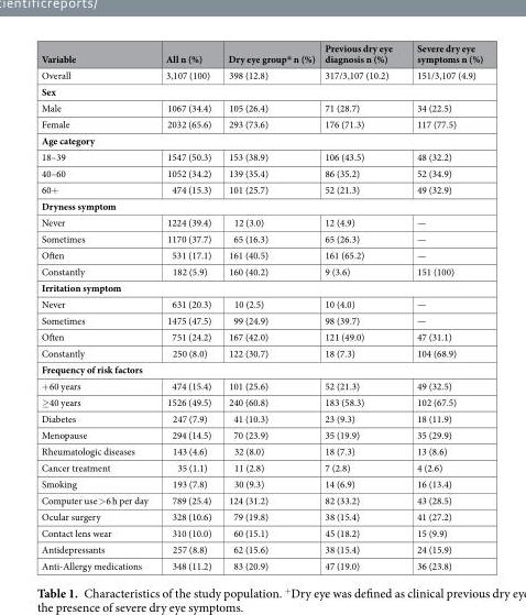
<table><thead><tr><td>Variable</td><td>All n (%)</td><td>Dry eye group* n (%)</td><td>Previous dry eye diagnosis n (%)</td><td>Severe dry eye symptoms n (%)</td></tr></thead><tbody><tr><td>Overall</td><td>3,107 (100)</td><td>398 (12.8)</td><td>317/3,107 (10.2)</td><td>151/3,107 (4.9)</td></tr><tr><td colspan="5">Sex</td></tr><tr><td>Male</td><td>1067 (34.4)</td><td>105 (26.4)</td><td>71 (28.7)</td><td>34 (22.5)</td></tr><tr><td>Female</td><td>2032 (65.6)</td><td>293 (73.6)</td><td>176 (71.3)</td><td>117 (77.5)</td></tr><tr><td colspan="5">Age category</td></tr><tr><td>18–39</td><td>1547 (50.3)</td><td>153 (38.9)</td><td>106 (43.5)</td><td>48 (32.2)</td></tr><tr><td>40–60</td><td>1052 (34.2)</td><td>139 (35.4)</td><td>86 (35.2)</td><td>52 (34.9)</td></tr><tr><td>60+</td><td>474 (15.3)</td><td>101 (25.7)</td><td>52 (21.3)</td><td>49 (32.9)</td></tr><tr><td colspan="5">Dryness symptom</td></tr><tr><td>Never</td><td>1224 (39.4)</td><td>12 (3.0)</td><td>12 (4.9)</td><td>—</td></tr><tr><td>Sometimes</td><td>1170 (37.7)</td><td>65 (16.3)</td><td>65 (26.3)</td><td>—</td></tr><tr><td>Often</td><td>531 (17.1)</td><td>161 (40.5)</td><td>161 (65.2)</td><td>—</td></tr><tr><td>Constantly</td><td>182 (5.9)</td><td>160 (40.2)</td><td>9 (3.6)</td><td>151 (100)</td></tr><tr><td colspan="5">Irritation symptom</td></tr><tr><td>Never</td><td>631 (20.3)</td><td>10 (2.5)</td><td>10 (4.0)</td><td>—</td></tr><tr><td>Sometimes</td><td>1475 (47.5)</td><td>99 (24.9)</td><td>98 (39.7)</td><td>—</td></tr><tr><td>Often</td><td>751 (24.2)</td><td>167 (42.0)</td><td>121 (49.0)</td><td>47 (31.1)</td></tr><tr><td>Constantly</td><td>250 (8.0)</td><td>122 (30.7)</td><td>18 (7.3)</td><td>104 (68.9)</td></tr><tr><td colspan="5">Frequency of risk factors</td></tr><tr><td>+60 years</td><td>474 (15.4)</td><td>101 (25.6)</td><td>52 (21.3)</td><td>49 (32.5)</td></tr><tr><td>≥40 years</td><td>1526 (49.5)</td><td>240 (60.8)</td><td>183 (58.3)</td><td>102 (67.5)</td></tr><tr><td>Diabetes</td><td>247 (7.9)</td><td>41 (10.3)</td><td>23 (9.3)</td><td>18 (11.9)</td></tr><tr><td>Menopause</td><td>294 (14.5)</td><td>70 (23.9)</td><td>35 (19.9)</td><td>35 (29.9)</td></tr><tr><td>Rheumatologic diseases</td><td>143 (4.6)</td><td>32 (8.0)</td><td>18 (7.3)</td><td>13 (8.6)</td></tr><tr><td>Cancer treatment</td><td>35 (1.1)</td><td>11 (2.8)</td><td>7 (2.8)</td><td>4 (2.6)</td></tr><tr><td>Smoking</td><td>193 (7.8)</td><td>30 (9.3)</td><td>14 (6.9)</td><td>16 (13.4)</td></tr><tr><td>Computer use &gt;6 h per day</td><td>789 (25.4)</td><td>124 (31.2)</td><td>82 (33.2)</td><td>43 (28.5)</td></tr><tr><td>Ocular surgery</td><td>328 (10.6)</td><td>79 (19.8)</td><td>38 (15.4)</td><td>41 (27.2)</td></tr><tr><td>Contact lens wear</td><td>310 (10.0)</td><td>60 (15.1)</td><td>45 (18.2)</td><td>15 (9.9)</td></tr><tr><td>Antidepressants</td><td>257 (8.8)</td><td>62 (15.6)</td><td>38 (15.4)</td><td>24 (15.9)</td></tr><tr><td>Anti-Allergy medications</td><td>348 (11.2)</td><td>83 (20.9)</td><td>47 (19.0)</td><td>36 (23.8)</td></tr></tbody></table>